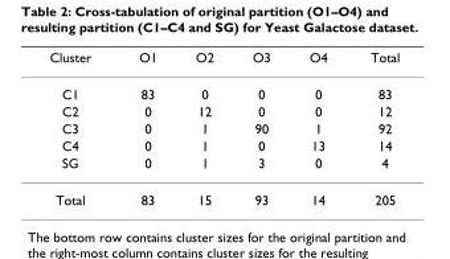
<table><thead><tr><td>Cluster</td><td>O1</td><td>O2</td><td>O3</td><td>O4</td><td>Total</td></tr></thead><tbody><tr><td>C1</td><td>83</td><td>0</td><td>0</td><td>0</td><td>83</td></tr><tr><td>C2</td><td>0</td><td>12</td><td>0</td><td>0</td><td>12</td></tr><tr><td>C3</td><td>0</td><td>1</td><td>90</td><td>1</td><td>92</td></tr><tr><td>C4</td><td>0</td><td>1</td><td>0</td><td>13</td><td>14</td></tr><tr><td>SG</td><td>0</td><td>1</td><td>3</td><td>0</td><td>4</td></tr><tr><td>Total</td><td>83</td><td>15</td><td>93</td><td>14</td><td>205</td></tr></tbody></table>